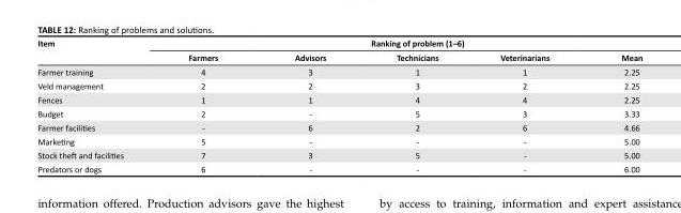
<table><thead><tr><td rowspan="2">Item</td><td colspan="5">Ranking of problem (1–6)</td></tr><tr><td>Farmers</td><td>Advisors</td><td>Technicians</td><td>Veterinarians</td><td>Mean</td></tr></thead><tbody><tr><td>Farmer training</td><td>4</td><td>3</td><td>1</td><td>1</td><td>2.25</td></tr><tr><td>Veld management</td><td>2</td><td>2</td><td>3</td><td>2</td><td>2.25</td></tr><tr><td>Fences</td><td>1</td><td>1</td><td>4</td><td>4</td><td>2.25</td></tr><tr><td>Budget</td><td>2</td><td>-</td><td>5</td><td>3</td><td>3.33</td></tr><tr><td>Farmer facilities</td><td>-</td><td>6</td><td>2</td><td>6</td><td>4.66</td></tr><tr><td>Marketing</td><td>5</td><td>-</td><td>-</td><td>-</td><td>5.00</td></tr><tr><td>Stock theft and facilities</td><td>7</td><td>3</td><td>5</td><td>-</td><td>5.00</td></tr><tr><td>Predators or dogs</td><td>6</td><td>-</td><td>-</td><td>-</td><td>6.00</td></tr></tbody></table>